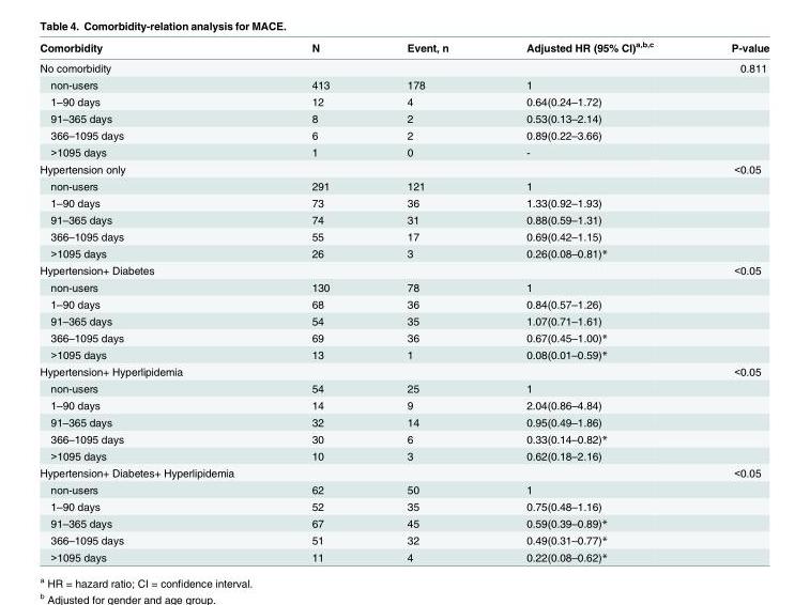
<table><thead><tr><td>Comorbidity</td><td>N</td><td>Event, n</td><td>Adjusted HR (95% CI)<sup>a,b,c</sup></td><td>P-value</td></tr></thead><tbody><tr><td>No comorbidity</td><td></td><td></td><td></td><td>0.811</td></tr><tr><td>non-users</td><td>413</td><td>178</td><td>1</td><td></td></tr><tr><td>1–90 days</td><td>12</td><td>4</td><td>0.64(0.24–1.72)</td><td></td></tr><tr><td>91–365 days</td><td>8</td><td>2</td><td>0.53(0.13–2.14)</td><td></td></tr><tr><td>366–1095 days</td><td>6</td><td>2</td><td>0.89(0.22–3.66)</td><td></td></tr><tr><td>&gt;1095 days</td><td>1</td><td>0</td><td>-</td><td></td></tr><tr><td>Hypertension only</td><td></td><td></td><td></td><td>&lt;0.05</td></tr><tr><td>non-users</td><td>291</td><td>121</td><td>1</td><td></td></tr><tr><td>1–90 days</td><td>73</td><td>36</td><td>1.33(0.92–1.93)</td><td></td></tr><tr><td>91–365 days</td><td>74</td><td>31</td><td>0.88(0.59–1.31)</td><td></td></tr><tr><td>366–1095 days</td><td>55</td><td>17</td><td>0.69(0.42–1.15)</td><td></td></tr><tr><td>&gt;1095 days</td><td>26</td><td>3</td><td>0.26(0.08–0.81)*</td><td></td></tr><tr><td>Hypertension+ Diabetes</td><td></td><td></td><td></td><td>&lt;0.05</td></tr><tr><td>non-users</td><td>130</td><td>78</td><td>1</td><td></td></tr><tr><td>1–90 days</td><td>68</td><td>36</td><td>0.84(0.57–1.26)</td><td></td></tr><tr><td>91–365 days</td><td>54</td><td>35</td><td>1.07(0.71–1.61)</td><td></td></tr><tr><td>366–1095 days</td><td>69</td><td>36</td><td>0.67(0.45–1.00)*</td><td></td></tr><tr><td>&gt;1095 days</td><td>13</td><td>1</td><td>0.08(0.01–0.59)*</td><td></td></tr><tr><td>Hypertension+ Hyperlipidemia</td><td></td><td></td><td></td><td>&lt;0.05</td></tr><tr><td>non-users</td><td>54</td><td>25</td><td>1</td><td></td></tr><tr><td>1–90 days</td><td>14</td><td>9</td><td>2.04(0.86–4.84)</td><td></td></tr><tr><td>91–365 days</td><td>32</td><td>14</td><td>0.95(0.49–1.86)</td><td></td></tr><tr><td>366–1095 days</td><td>30</td><td>6</td><td>0.33(0.14–0.82)*</td><td></td></tr><tr><td>&gt;1095 days</td><td>10</td><td>3</td><td>0.62(0.18–2.16)</td><td></td></tr><tr><td>Hypertension+ Diabetes+ Hyperlipidemia</td><td></td><td></td><td></td><td>&lt;0.05</td></tr><tr><td>non-users</td><td>62</td><td>50</td><td>1</td><td></td></tr><tr><td>1–90 days</td><td>52</td><td>35</td><td>0.75(0.48–1.16)</td><td></td></tr><tr><td>91–365 days</td><td>67</td><td>45</td><td>0.59(0.39–0.89)*</td><td></td></tr><tr><td>366–1095 days</td><td>51</td><td>32</td><td>0.49(0.31–0.77)*</td><td></td></tr><tr><td>&gt;1095 days</td><td>11</td><td>4</td><td>0.22(0.08–0.62)*</td><td></td></tr></tbody></table>